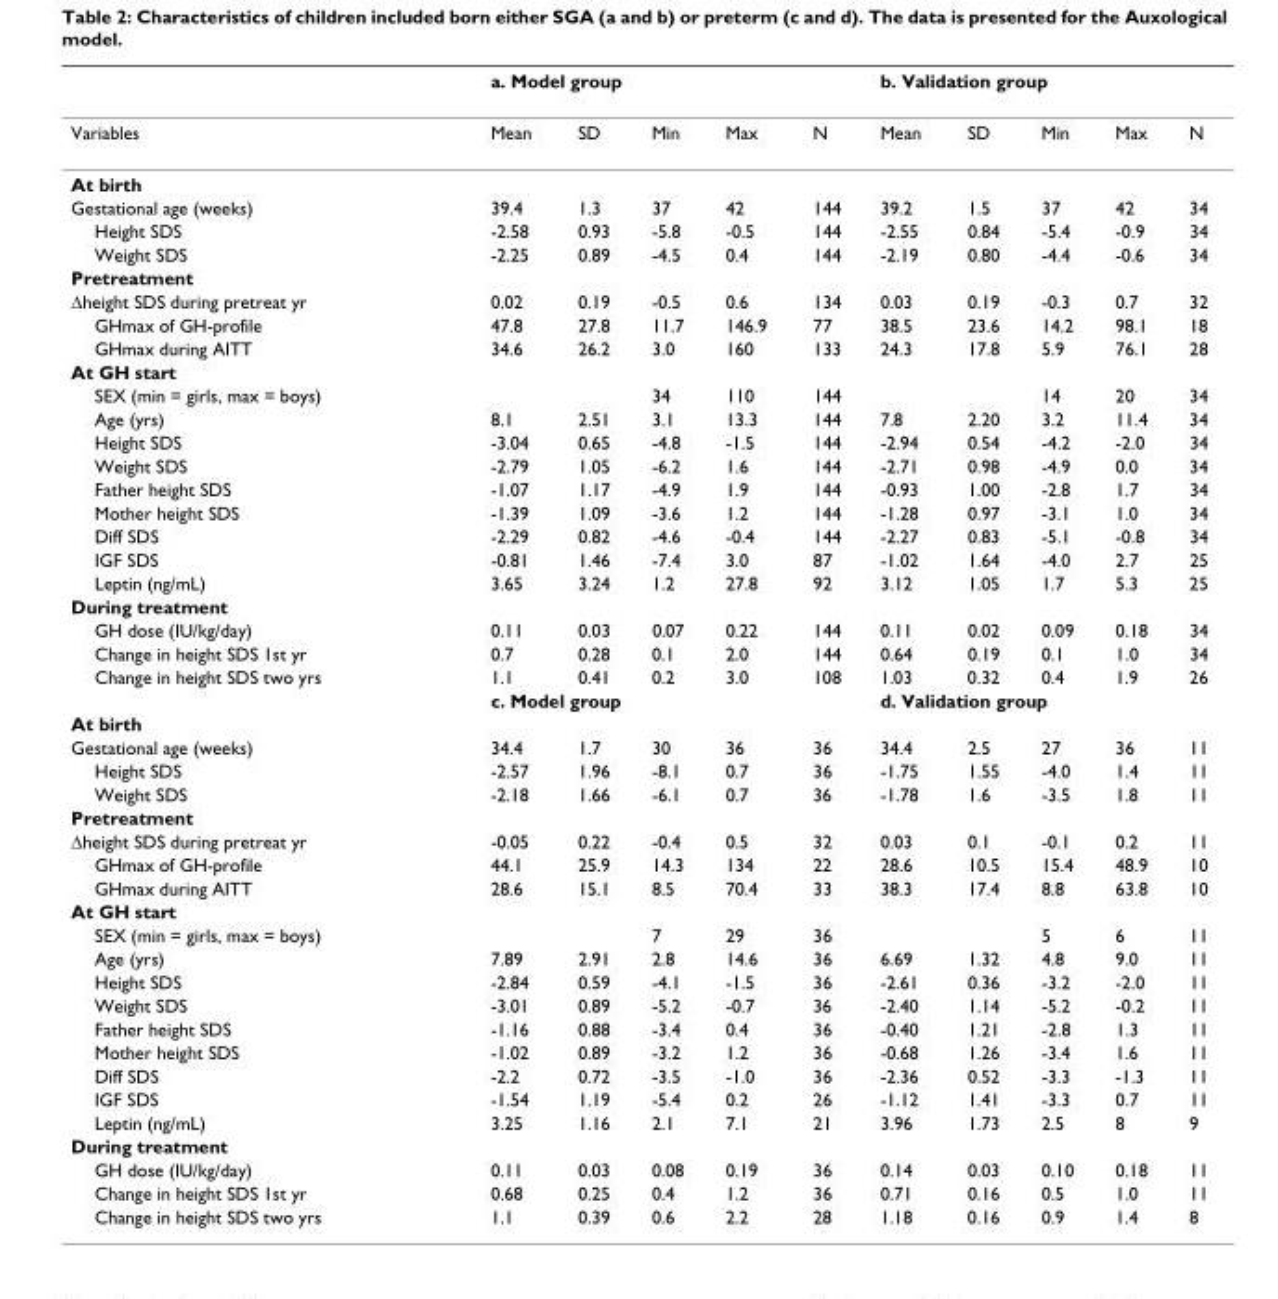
<table><thead><tr><td rowspan="2">Variables</td><td colspan="5">a. Model group</td><td colspan="5">b. Validation group</td></tr><tr><td>Mean</td><td>SD</td><td>Min</td><td>Max</td><td>N</td><td>Mean</td><td>SD</td><td>Min</td><td>Max</td><td>N</td></tr></thead><tbody><tr><td colspan="11">At birth</td></tr><tr><td>Gestational age (weeks)</td><td>39.4</td><td>1.3</td><td>37</td><td>42</td><td>144</td><td>39.2</td><td>1.5</td><td>37</td><td>42</td><td>34</td></tr><tr><td>Height SDS</td><td>-2.58</td><td>0.93</td><td>-5.8</td><td>-0.5</td><td>144</td><td>-2.55</td><td>0.84</td><td>-5.4</td><td>-0.9</td><td>34</td></tr><tr><td>Weight SDS</td><td>-2.25</td><td>0.89</td><td>-4.5</td><td>0.4</td><td>144</td><td>-2.19</td><td>0.80</td><td>-4.4</td><td>-0.6</td><td>34</td></tr><tr><td colspan="11">Pretreatment</td></tr><tr><td>Δheight SDS during pretreat yr</td><td>0.02</td><td>0.19</td><td>-0.5</td><td>0.6</td><td>134</td><td>0.03</td><td>0.19</td><td>-0.3</td><td>0.7</td><td>32</td></tr><tr><td>GHmax of GH-profile</td><td>47.8</td><td>27.8</td><td>11.7</td><td>146.9</td><td>77</td><td>38.5</td><td>23.6</td><td>14.2</td><td>98.1</td><td>18</td></tr><tr><td>GHmax during AITT</td><td>34.6</td><td>26.2</td><td>3.0</td><td>160</td><td>133</td><td>24.3</td><td>17.8</td><td>5.9</td><td>76.1</td><td>28</td></tr><tr><td colspan="11">At GH start</td></tr><tr><td>SEX (min = girls, max = boys)</td><td></td><td></td><td>34</td><td>110</td><td>144</td><td></td><td></td><td>14</td><td>20</td><td>34</td></tr><tr><td>Age (yrs)</td><td>8.1</td><td>2.51</td><td>3.1</td><td>13.3</td><td>144</td><td>7.8</td><td>2.20</td><td>3.2</td><td>11.4</td><td>34</td></tr><tr><td>Height SDS</td><td>-3.04</td><td>0.65</td><td>-4.8</td><td>-1.5</td><td>144</td><td>-2.94</td><td>0.54</td><td>-4.2</td><td>-2.0</td><td>34</td></tr><tr><td>Weight SDS</td><td>-2.79</td><td>1.05</td><td>-6.2</td><td>1.6</td><td>144</td><td>-2.71</td><td>0.98</td><td>-4.9</td><td>0.0</td><td>34</td></tr><tr><td>Father height SDS</td><td>-1.07</td><td>1.17</td><td>-4.9</td><td>1.9</td><td>144</td><td>-0.93</td><td>1.00</td><td>-2.8</td><td>1.7</td><td>34</td></tr><tr><td>Mother height SDS</td><td>-1.39</td><td>1.09</td><td>-3.6</td><td>1.2</td><td>144</td><td>-1.28</td><td>0.97</td><td>-3.1</td><td>1.0</td><td>34</td></tr><tr><td>Diff SDS</td><td>-2.29</td><td>0.82</td><td>-4.6</td><td>-0.4</td><td>144</td><td>-2.27</td><td>0.83</td><td>-5.1</td><td>-0.8</td><td>34</td></tr><tr><td>IGF SDS</td><td>-0.81</td><td>1.46</td><td>-7.4</td><td>3.0</td><td>87</td><td>-1.02</td><td>1.64</td><td>-4.0</td><td>2.7</td><td>25</td></tr><tr><td>Leptin (ng/mL)</td><td>3.65</td><td>3.24</td><td>1.2</td><td>27.8</td><td>92</td><td>3.12</td><td>1.05</td><td>1.7</td><td>5.3</td><td>25</td></tr><tr><td colspan="11">During treatment</td></tr><tr><td>GH dose (IU/kg/day)</td><td>0.11</td><td>0.03</td><td>0.07</td><td>0.22</td><td>144</td><td>0.11</td><td>0.02</td><td>0.09</td><td>0.18</td><td>34</td></tr><tr><td>Change in height SDS 1st yr</td><td>0.7</td><td>0.28</td><td>0.1</td><td>2.0</td><td>144</td><td>0.64</td><td>0.19</td><td>0.1</td><td>1.0</td><td>34</td></tr><tr><td rowspan="2">Change in height SDS two yrs</td><td>1.1</td><td>0.41</td><td>0.2</td><td>3.0</td><td>108</td><td>1.03</td><td>0.32</td><td>0.4</td><td>1.9</td><td>26</td></tr><tr><td colspan="5">c. Model group</td><td colspan="5">d. Validation group</td></tr><tr><td colspan="11">At birth</td></tr><tr><td>Gestational age (weeks)</td><td>34.4</td><td>1.7</td><td>30</td><td>36</td><td>36</td><td>34.4</td><td>2.5</td><td>27</td><td>36</td><td>11</td></tr><tr><td>Height SDS</td><td>-2.57</td><td>1.96</td><td>-8.1</td><td>0.7</td><td>36</td><td>-1.75</td><td>1.55</td><td>-4.0</td><td>1.4</td><td>11</td></tr><tr><td>Weight SDS</td><td>-2.18</td><td>1.66</td><td>-6.1</td><td>0.7</td><td>36</td><td>-1.78</td><td>1.6</td><td>-3.5</td><td>1.8</td><td>11</td></tr><tr><td colspan="11">Pretreatment</td></tr><tr><td>Δheight SDS during pretreat yr</td><td>-0.05</td><td>0.22</td><td>-0.4</td><td>0.5</td><td>32</td><td>0.03</td><td>0.1</td><td>-0.1</td><td>0.2</td><td>11</td></tr><tr><td>GHmax of GH-profile</td><td>44.1</td><td>25.9</td><td>14.3</td><td>134</td><td>22</td><td>28.6</td><td>10.5</td><td>15.4</td><td>48.9</td><td>10</td></tr><tr><td>GHmax during AITT</td><td>28.6</td><td>15.1</td><td>8.5</td><td>70.4</td><td>33</td><td>38.3</td><td>17.4</td><td>8.8</td><td>63.8</td><td>10</td></tr><tr><td colspan="11">At GH start</td></tr><tr><td>SEX (min = girls, max = boys)</td><td></td><td></td><td>7</td><td>29</td><td>36</td><td></td><td></td><td>5</td><td>6</td><td>11</td></tr><tr><td>Age (yrs)</td><td>7.89</td><td>2.91</td><td>2.8</td><td>14.6</td><td>36</td><td>6.69</td><td>1.32</td><td>4.8</td><td>9.0</td><td>11</td></tr><tr><td>Height SDS</td><td>-2.84</td><td>0.59</td><td>-4.1</td><td>-1.5</td><td>36</td><td>-2.61</td><td>0.36</td><td>-3.2</td><td>-2.0</td><td>11</td></tr><tr><td>Weight SDS</td><td>-3.01</td><td>0.89</td><td>-5.2</td><td>-0.7</td><td>36</td><td>-2.40</td><td>1.14</td><td>-5.2</td><td>-0.2</td><td>11</td></tr><tr><td>Father height SDS</td><td>-1.16</td><td>0.88</td><td>-3.4</td><td>0.4</td><td>36</td><td>-0.40</td><td>1.21</td><td>-2.8</td><td>1.3</td><td>11</td></tr><tr><td>Mother height SDS</td><td>-1.02</td><td>0.89</td><td>-3.2</td><td>1.2</td><td>36</td><td>-0.68</td><td>1.26</td><td>-3.4</td><td>1.6</td><td>11</td></tr><tr><td>Diff SDS</td><td>-2.2</td><td>0.72</td><td>-3.5</td><td>-1.0</td><td>36</td><td>-2.36</td><td>0.52</td><td>-3.3</td><td>-1.3</td><td>11</td></tr><tr><td>IGF SDS</td><td>-1.54</td><td>1.19</td><td>-5.4</td><td>0.2</td><td>26</td><td>-1.12</td><td>1.41</td><td>-3.3</td><td>0.7</td><td>11</td></tr><tr><td>Leptin (ng/mL)</td><td>3.25</td><td>1.16</td><td>2.1</td><td>7.1</td><td>21</td><td>3.96</td><td>1.73</td><td>2.5</td><td>8</td><td>9</td></tr><tr><td colspan="11">During treatment</td></tr><tr><td>GH dose (IU/kg/day)</td><td>0.11</td><td>0.03</td><td>0.08</td><td>0.19</td><td>36</td><td>0.14</td><td>0.03</td><td>0.10</td><td>0.18</td><td>11</td></tr><tr><td>Change in height SDS 1st yr</td><td>0.68</td><td>0.25</td><td>0.4</td><td>1.2</td><td>36</td><td>0.71</td><td>0.16</td><td>0.5</td><td>1.0</td><td>11</td></tr><tr><td>Change in height SDS two yrs</td><td>1.1</td><td>0.39</td><td>0.6</td><td>2.2</td><td>28</td><td>1.18</td><td>0.16</td><td>0.9</td><td>1.4</td><td>8</td></tr></tbody></table>